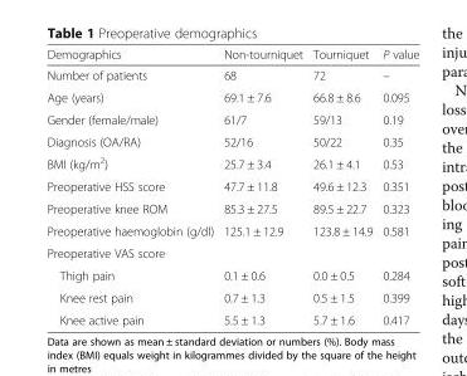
<table><thead><tr><td>Demographics</td><td>Non-tourniquet</td><td>Tourniquet</td><td>P value</td></tr></thead><tbody><tr><td>Number of patients</td><td>68</td><td>72</td><td>–</td></tr><tr><td>Age (years)</td><td>69.1 ± 7.6</td><td>66.8 ± 8.6</td><td>0.095</td></tr><tr><td>Gender (female/male)</td><td>61/7</td><td>59/13</td><td>0.19</td></tr><tr><td>Diagnosis (OA/RA)</td><td>52/16</td><td>50/22</td><td>0.35</td></tr><tr><td>BMI (kg/m<sup>2</sup>)</td><td>25.7 ± 3.4</td><td>26.1 ± 4.1</td><td>0.53</td></tr><tr><td>Preoperative HSS score</td><td>47.7 ± 11.8</td><td>49.6 ± 12.3</td><td>0.351</td></tr><tr><td>Preoperative knee ROM</td><td>85.3 ± 27.5</td><td>89.5 ± 22.7</td><td>0.323</td></tr><tr><td>Preoperative haemoglobin (g/dl)</td><td>125.1 ± 12.9</td><td>123.8 ± 14.9</td><td>0.581</td></tr><tr><td colspan="4">Preoperative VAS score</td></tr><tr><td>Thigh pain</td><td>0.1 ± 0.6</td><td>0.0 ± 0.5</td><td>0.284</td></tr><tr><td>Knee rest pain</td><td>0.7 ± 1.3</td><td>0.5 ± 1.5</td><td>0.399</td></tr><tr><td>Knee active pain</td><td>5.5 ± 1.3</td><td>5.7 ± 1.6</td><td>0.417</td></tr></tbody></table>